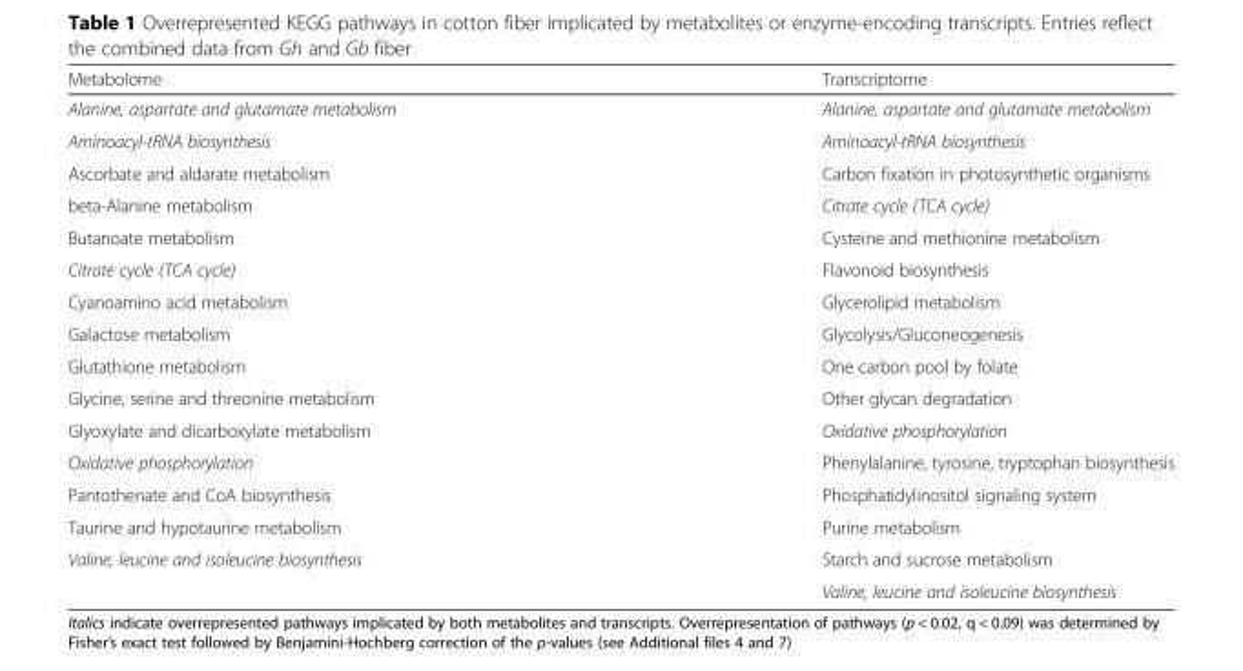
<table><thead><tr><td>Metabolome</td><td>Transcriptome</td></tr></thead><tbody><tr><td>Alanine, aspartate and glutamate metabolism</td><td>Alanine, aspartate and glutamate metabolism</td></tr><tr><td>Aminoacyl-tRNA biosynthesis</td><td>Aminoacyl-tRNA biosynthesis</td></tr><tr><td>Ascorbate and aldarate metabolism</td><td>Carbon fixation in photosynthetic organisms</td></tr><tr><td>beta-Alanine metabolism</td><td>Citrate cycle (TCA cycle)</td></tr><tr><td>Butanoate metabolism</td><td>Cysteine and methionine metabolism</td></tr><tr><td>Citrate cycle (TCA cycle)</td><td>Flavonoid biosynthesis</td></tr><tr><td>Cyanoamino acid metabolism</td><td>Glycerolipid metabolism</td></tr><tr><td>Galactose metabolism</td><td>Glycolysis/Gluconeogenesis</td></tr><tr><td>Glutathione metabolism</td><td>One carbon pool by folate</td></tr><tr><td>Glycine, serine and threonine metabolism</td><td>Other glycan degradation</td></tr><tr><td>Glyoxylate and dicarboxylate metabolism</td><td>Oxidative phosphorylation</td></tr><tr><td>Oxidative phosphorylation</td><td>Phenylalanine, tyrosine, tryptophan biosynthesis</td></tr><tr><td>Pantothenate and CoA biosynthesis</td><td>Phosphatidylinositol signaling system</td></tr><tr><td>Taurine and hypotaurine metabolism</td><td>Purine metabolism</td></tr><tr><td rowspan="2">Valine, leucine and isoleucine biosynthesis</td><td>Starch and sucrose metabolism</td></tr><tr><td>Valine, leucine and isoleucine biosynthesis</td></tr></tbody></table>